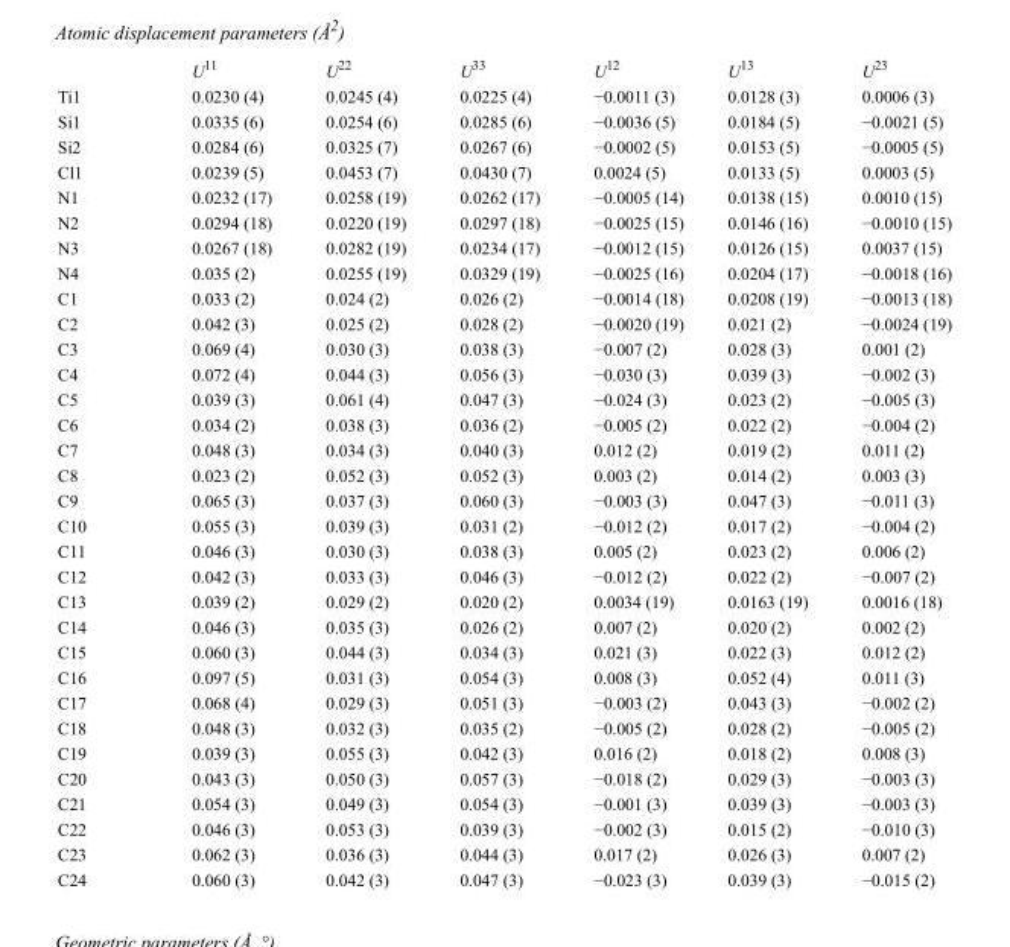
<table><thead><tr><td></td><td>U<sup>11</sup></td><td>U<sup>22</sup></td><td>U<sup>33</sup></td><td>U<sup>12</sup></td><td>U<sup>13</sup></td><td>U<sup>23</sup></td></tr></thead><tbody><tr><td>Ti1</td><td>0.0230 (4)</td><td>0.0245 (4)</td><td>0.0225 (4)</td><td>−0.0011 (3)</td><td>0.0128 (3)</td><td>0.0006 (3)</td></tr><tr><td>Si1</td><td>0.0335 (6)</td><td>0.0254 (6)</td><td>0.0285 (6)</td><td>−0.0036 (5)</td><td>0.0184 (5)</td><td>−0.0021 (5)</td></tr><tr><td>Si2</td><td>0.0284 (6)</td><td>0.0325 (7)</td><td>0.0267 (6)</td><td>−0.0002 (5)</td><td>0.0153 (5)</td><td>−0.0005 (5)</td></tr><tr><td>Cl1</td><td>0.0239 (5)</td><td>0.0453 (7)</td><td>0.0430 (7)</td><td>0.0024 (5)</td><td>0.0133 (5)</td><td>0.0003 (5)</td></tr><tr><td>N1</td><td>0.0232 (17)</td><td>0.0258 (19)</td><td>0.0262 (17)</td><td>−0.0005 (14)</td><td>0.0138 (15)</td><td>0.0010 (15)</td></tr><tr><td>N2</td><td>0.0294 (18)</td><td>0.0220 (19)</td><td>0.0297 (18)</td><td>−0.0025 (15)</td><td>0.0146 (16)</td><td>−0.0010 (15)</td></tr><tr><td>N3</td><td>0.0267 (18)</td><td>0.0282 (19)</td><td>0.0234 (17)</td><td>−0.0012 (15)</td><td>0.0126 (15)</td><td>0.0037 (15)</td></tr><tr><td>N4</td><td>0.035 (2)</td><td>0.0255 (19)</td><td>0.0329 (19)</td><td>−0.0025 (16)</td><td>0.0204 (17)</td><td>−0.0018 (16)</td></tr><tr><td>C1</td><td>0.033 (2)</td><td>0.024 (2)</td><td>0.026 (2)</td><td>−0.0014 (18)</td><td>0.0208 (19)</td><td>−0.0013 (18)</td></tr><tr><td>C2</td><td>0.042 (3)</td><td>0.025 (2)</td><td>0.028 (2)</td><td>−0.0020 (19)</td><td>0.021 (2)</td><td>−0.0024 (19)</td></tr><tr><td>C3</td><td>0.069 (4)</td><td>0.030 (3)</td><td>0.038 (3)</td><td>−0.007 (2)</td><td>0.028 (3)</td><td>0.001 (2)</td></tr><tr><td>C4</td><td>0.072 (4)</td><td>0.044 (3)</td><td>0.056 (3)</td><td>−0.030 (3)</td><td>0.039 (3)</td><td>−0.002 (3)</td></tr><tr><td>C5</td><td>0.039 (3)</td><td>0.061 (4)</td><td>0.047 (3)</td><td>−0.024 (3)</td><td>0.023 (2)</td><td>−0.005 (3)</td></tr><tr><td>C6</td><td>0.034 (2)</td><td>0.038 (3)</td><td>0.036 (2)</td><td>−0.005 (2)</td><td>0.022 (2)</td><td>−0.004 (2)</td></tr><tr><td>C7</td><td>0.048 (3)</td><td>0.034 (3)</td><td>0.040 (3)</td><td>0.012 (2)</td><td>0.019 (2)</td><td>0.011 (2)</td></tr><tr><td>C8</td><td>0.023 (2)</td><td>0.052 (3)</td><td>0.052 (3)</td><td>0.003 (2)</td><td>0.014 (2)</td><td>0.003 (3)</td></tr><tr><td>C9</td><td>0.065 (3)</td><td>0.037 (3)</td><td>0.060 (3)</td><td>−0.003 (3)</td><td>0.047 (3)</td><td>−0.011 (3)</td></tr><tr><td>C10</td><td>0.055 (3)</td><td>0.039 (3)</td><td>0.031 (2)</td><td>−0.012 (2)</td><td>0.017 (2)</td><td>−0.004 (2)</td></tr><tr><td>C11</td><td>0.046 (3)</td><td>0.030 (3)</td><td>0.038 (3)</td><td>0.005 (2)</td><td>0.023 (2)</td><td>0.006 (2)</td></tr><tr><td>C12</td><td>0.042 (3)</td><td>0.033 (3)</td><td>0.046 (3)</td><td>−0.012 (2)</td><td>0.022 (2)</td><td>−0.007 (2)</td></tr><tr><td>C13</td><td>0.039 (2)</td><td>0.029 (2)</td><td>0.020 (2)</td><td>0.0034 (19)</td><td>0.0163 (19)</td><td>0.0016 (18)</td></tr><tr><td>C14</td><td>0.046 (3)</td><td>0.035 (3)</td><td>0.026 (2)</td><td>0.007 (2)</td><td>0.020 (2)</td><td>0.002 (2)</td></tr><tr><td>C15</td><td>0.060 (3)</td><td>0.044 (3)</td><td>0.034 (3)</td><td>0.021 (3)</td><td>0.022 (3)</td><td>0.012 (2)</td></tr><tr><td>C16</td><td>0.097 (5)</td><td>0.031 (3)</td><td>0.054 (3)</td><td>0.008 (3)</td><td>0.052 (4)</td><td>0.011 (3)</td></tr><tr><td>C17</td><td>0.068 (4)</td><td>0.029 (3)</td><td>0.051 (3)</td><td>−0.003 (2)</td><td>0.043 (3)</td><td>−0.002 (2)</td></tr><tr><td>C18</td><td>0.048 (3)</td><td>0.032 (3)</td><td>0.035 (2)</td><td>−0.005 (2)</td><td>0.028 (2)</td><td>−0.005 (2)</td></tr><tr><td>C19</td><td>0.039 (3)</td><td>0.055 (3)</td><td>0.042 (3)</td><td>0.016 (2)</td><td>0.018 (2)</td><td>0.008 (3)</td></tr><tr><td>C20</td><td>0.043 (3)</td><td>0.050 (3)</td><td>0.057 (3)</td><td>−0.018 (2)</td><td>0.029 (3)</td><td>−0.003 (3)</td></tr><tr><td>C21</td><td>0.054 (3)</td><td>0.049 (3)</td><td>0.054 (3)</td><td>−0.001 (3)</td><td>0.039 (3)</td><td>−0.003 (3)</td></tr><tr><td>C22</td><td>0.046 (3)</td><td>0.053 (3)</td><td>0.039 (3)</td><td>−0.002 (3)</td><td>0.015 (2)</td><td>−0.010 (3)</td></tr><tr><td>C23</td><td>0.062 (3)</td><td>0.036 (3)</td><td>0.044 (3)</td><td>0.017 (2)</td><td>0.026 (3)</td><td>0.007 (2)</td></tr><tr><td>C24</td><td>0.060 (3)</td><td>0.042 (3)</td><td>0.047 (3)</td><td>−0.023 (3)</td><td>0.039 (3)</td><td>−0.015 (2)</td></tr></tbody></table>